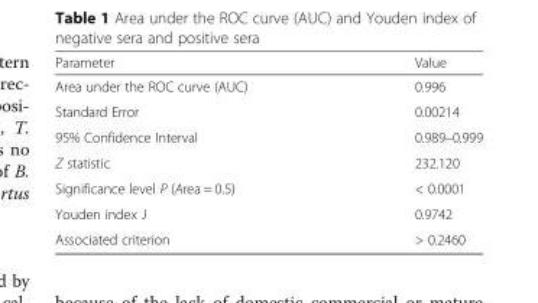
<table><thead><tr><td>Parameter</td><td>Value</td></tr></thead><tbody><tr><td>Area under the ROC curve (AUC)</td><td>0.996</td></tr><tr><td>Standard Error</td><td>0.00214</td></tr><tr><td>95% Confidence Interval</td><td>0.989–0.999</td></tr><tr><td>Z statistic</td><td>232.120</td></tr><tr><td>Significance level P (Area = 0.5)</td><td>&lt; 0.0001</td></tr><tr><td>Youden index J</td><td>0.9742</td></tr><tr><td>Associated criterion</td><td>&gt; 0.2460</td></tr></tbody></table>